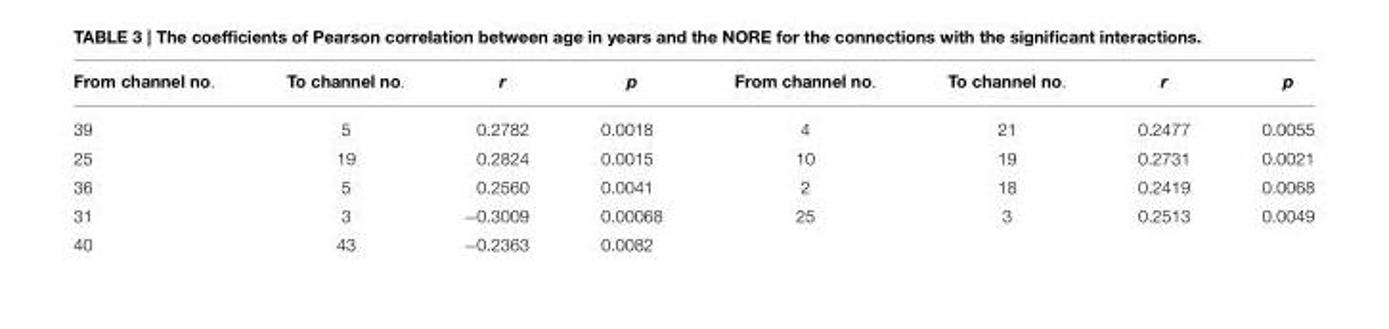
<table><thead><tr><td>From channel no.</td><td>To channel no.</td><td>r</td><td>p</td><td>From channel no.</td><td>To channel no.</td><td>r</td><td>p</td></tr></thead><tbody><tr><td>39</td><td>5</td><td>0.2782</td><td>0.0018</td><td>4</td><td>21</td><td>0.2477</td><td>0.0055</td></tr><tr><td>25</td><td>19</td><td>0.2824</td><td>0.0015</td><td>10</td><td>19</td><td>0.2731</td><td>0.0021</td></tr><tr><td>36</td><td>5</td><td>0.2560</td><td>0.0041</td><td>2</td><td>18</td><td>0.2419</td><td>0.0068</td></tr><tr><td>31</td><td>3</td><td>−0.3009</td><td>0.00068</td><td>25</td><td>3</td><td>0.2513</td><td>0.0049</td></tr><tr><td>40</td><td>43</td><td>−0.2363</td><td>0.0082</td><td></td><td></td><td></td><td></td></tr></tbody></table>